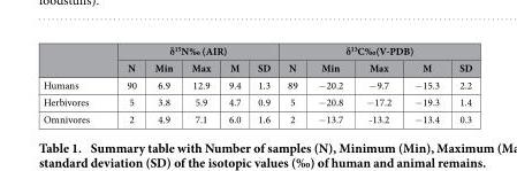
<table><thead><tr><td rowspan="2"></td><td colspan="5">δ<sup>15</sup>N‰ (AIR)</td><td colspan="5">δ<sup>13</sup>C‰(V-PDB)</td></tr><tr><td>N</td><td>Min</td><td>Max</td><td>M</td><td>SD</td><td>N</td><td>Min</td><td>Max</td><td>M</td><td>SD</td></tr></thead><tbody><tr><td>Humans</td><td>90</td><td>6.9</td><td>12.9</td><td>9.4</td><td>1.3</td><td>89</td><td>− 20.2</td><td>− 9.7</td><td>− 15.3</td><td>2.2</td></tr><tr><td>Herbivores</td><td>5</td><td>3.8</td><td>5.9</td><td>4.7</td><td>0.9</td><td>5</td><td>− 20.8</td><td>− 17.2</td><td>− 19.3</td><td>1.4</td></tr><tr><td>Omnivores</td><td>2</td><td>4.9</td><td>7.1</td><td>6.0</td><td>1.6</td><td>2</td><td>− 13.7</td><td>-13.2</td><td>− 13.4</td><td>0.3</td></tr></tbody></table>